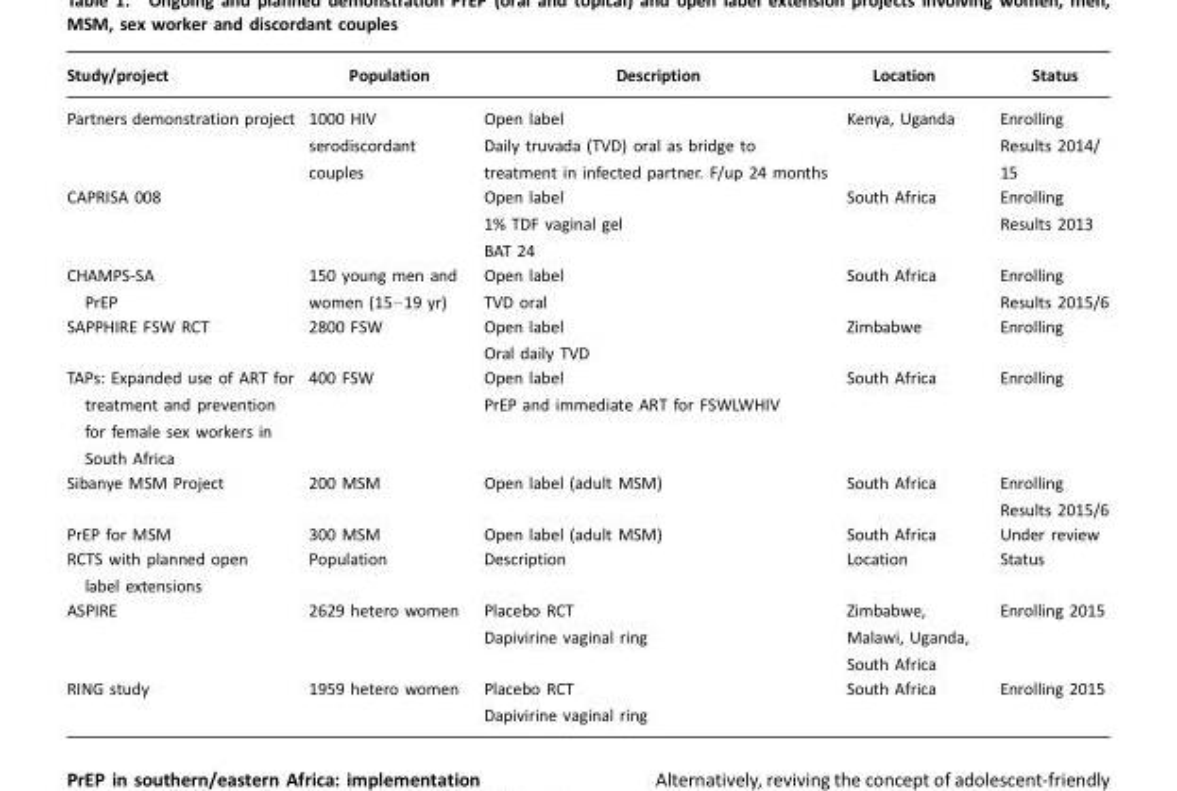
<table><thead><tr><td>Study/project</td><td>Population</td><td>Description</td><td>Location</td><td>Status</td></tr></thead><tbody><tr><td>Partners demonstration project</td><td>1000 HIV serodiscordant couples</td><td>Open label Daily truvada (TVD) oral as bridge to treatment in infected partner. F/up 24 months</td><td>Kenya, Uganda</td><td>Enrolling Results 2014/ 15</td></tr><tr><td>CAPRISA 008</td><td></td><td>Open label 1% TDF vaginal gel BAT 24</td><td>South Africa</td><td>Enrolling Results 2013</td></tr><tr><td>CHAMPS-SA PrEP</td><td>150 young men and women (15–19 yr)</td><td>Open label TVD oral</td><td>South Africa</td><td>Enrolling Results 2015/6</td></tr><tr><td>SAPPHIRE FSW RCT</td><td>2800 FSW</td><td>Open label Oral daily TVD</td><td>Zimbabwe</td><td>Enrolling</td></tr><tr><td>TAPs: Expanded use of ART for treatment and prevention for female sex workers in South Africa</td><td>400 FSW</td><td>Open label PrEP and immediate ART for FSWLWHIV</td><td>South Africa</td><td>Enrolling</td></tr><tr><td>Sibanye MSM Project</td><td>200 MSM</td><td>Open label (adult MSM)</td><td>South Africa</td><td>Enrolling Results 2015/6</td></tr><tr><td>PrEP for MSM</td><td>300 MSM</td><td>Open label (adult MSM)</td><td>South Africa</td><td>Under review</td></tr><tr><td>RCTS with planned open label extensions</td><td>Population</td><td>Description</td><td>Location</td><td>Status</td></tr><tr><td>ASPIRE</td><td>2629 hetero women</td><td>Placebo RCT Dapivirine vaginal ring</td><td>Zimbabwe, Malawi, Uganda, South Africa</td><td>Enrolling 2015</td></tr><tr><td>RING study</td><td>1959 hetero women</td><td>Placebo RCT Dapivirine vaginal ring</td><td>South Africa</td><td>Enrolling 2015</td></tr></tbody></table>